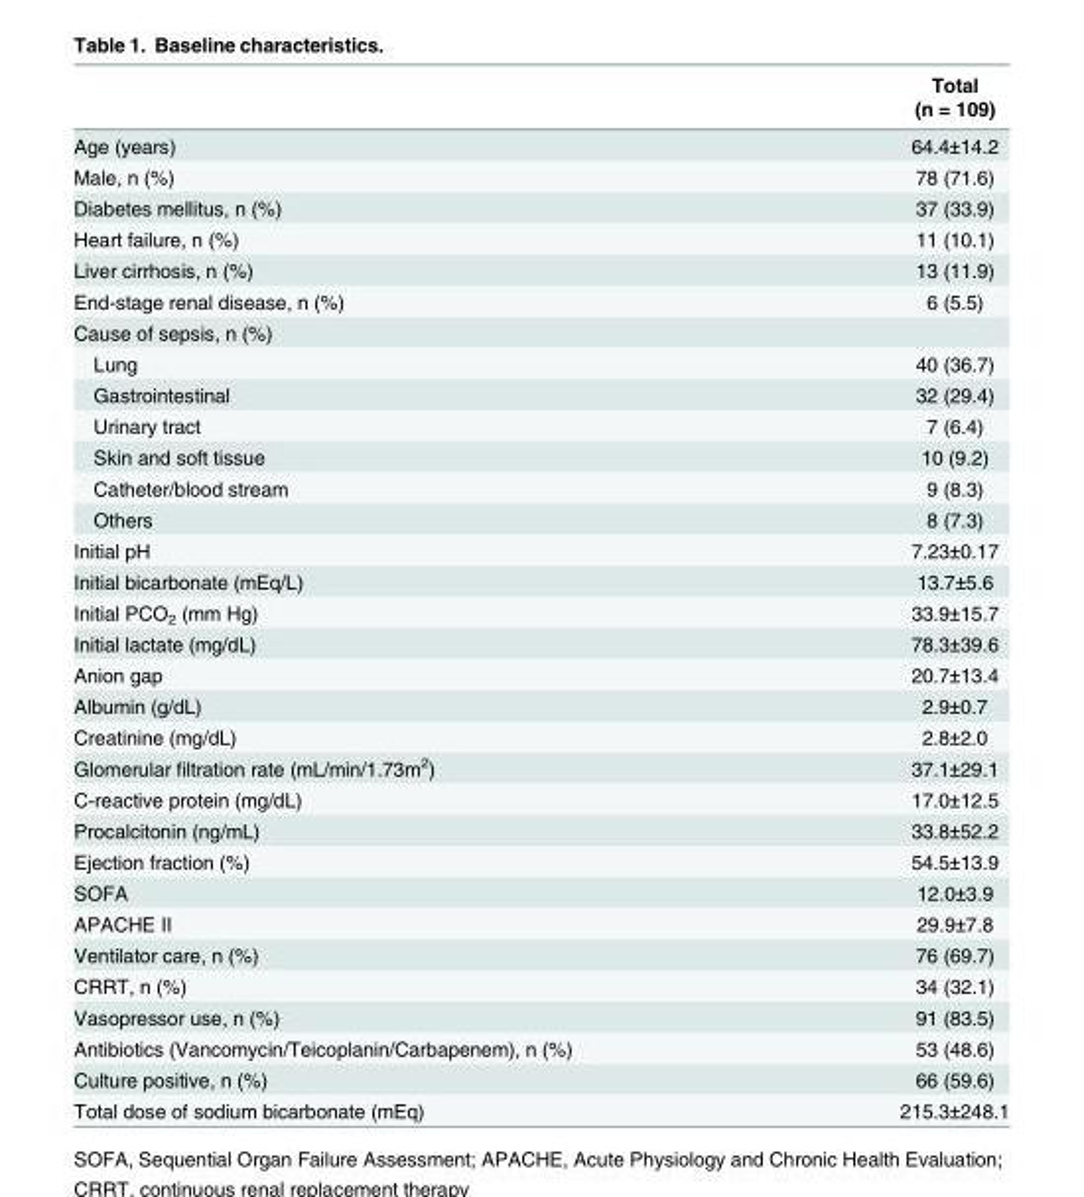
<table><thead><tr><td rowspan="2"></td><td rowspan="2">Total (n = 109)</td></tr><tr></tr></thead><tbody><tr><td>Age (years)</td><td>64.4±14.2</td></tr><tr><td>Male, n (%)</td><td>78 (71.6)</td></tr><tr><td>Diabetes mellitus, n (%)</td><td>37 (33.9)</td></tr><tr><td>Heart failure, n (%)</td><td>11 (10.1)</td></tr><tr><td>Liver cirrhosis, n (%)</td><td>13 (11.9)</td></tr><tr><td>End-stage renal disease, n (%)</td><td>6 (5.5)</td></tr><tr><td colspan="2">Cause of sepsis, n (%)</td></tr><tr><td>Lung</td><td>40 (36.7)</td></tr><tr><td>Gastrointestinal</td><td>32 (29.4)</td></tr><tr><td>Urinary tract</td><td>7 (6.4)</td></tr><tr><td>Skin and soft tissue</td><td>10 (9.2)</td></tr><tr><td>Catheter/blood stream</td><td>9 (8.3)</td></tr><tr><td>Others</td><td>8 (7.3)</td></tr><tr><td>Initial pH</td><td>7.23±0.17</td></tr><tr><td>Initial bicarbonate (mEq/L)</td><td>13.7±5.6</td></tr><tr><td>Initial PCO<sub>2</sub> (mm Hg)</td><td>33.9±15.7</td></tr><tr><td>Initial lactate (mg/dL)</td><td>78.3±39.6</td></tr><tr><td>Anion gap</td><td>20.7±13.4</td></tr><tr><td>Albumin (g/dL)</td><td>2.9±0.7</td></tr><tr><td>Creatinine (mg/dL)</td><td>2.8±2.0</td></tr><tr><td>Glomerular filtration rate (mL/min/1.73m<sup>2</sup>)</td><td>37.1±29.1</td></tr><tr><td>C-reactive protein (mg/dL)</td><td>17.0±12.5</td></tr><tr><td>Procalcitonin (ng/mL)</td><td>33.8±52.2</td></tr><tr><td>Ejection fraction (%)</td><td>54.5±13.9</td></tr><tr><td>SOFA</td><td>12.0±3.9</td></tr><tr><td>APACHE II</td><td>29.9±7.8</td></tr><tr><td>Ventilator care, n (%)</td><td>76 (69.7)</td></tr><tr><td>CRRT, n (%)</td><td>34 (32.1)</td></tr><tr><td>Vasopressor use, n (%)</td><td>91 (83.5)</td></tr><tr><td>Antibiotics (Vancomycin/Teicoplanin/Carbapenem), n (%)</td><td>53 (48.6)</td></tr><tr><td>Culture positive, n (%)</td><td>66 (59.6)</td></tr><tr><td>Total dose of sodium bicarbonate (mEq)</td><td>215.3±248.1</td></tr></tbody></table>